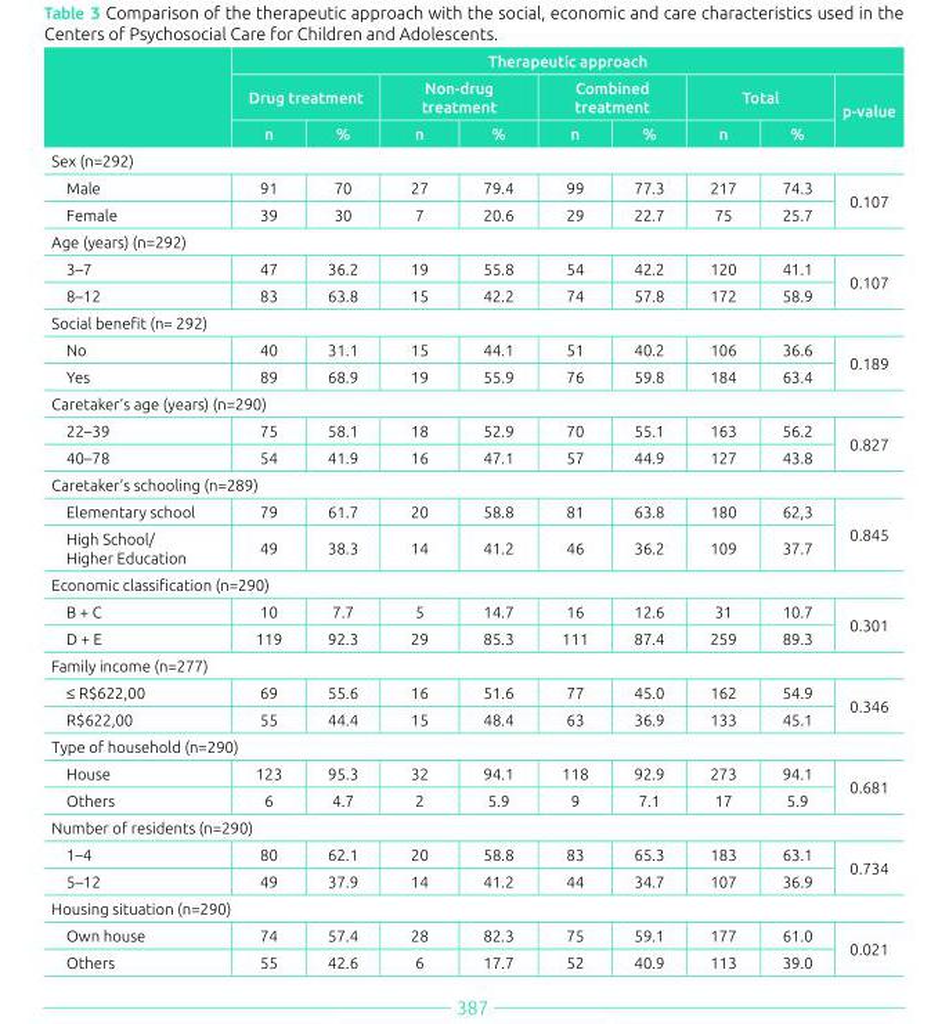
<table><thead><tr><td rowspan="3"></td><td colspan="9">Therapeutic approach</td></tr><tr><td colspan="2">Drug treatment</td><td colspan="2">Non‑drug treatment</td><td colspan="2">Combined treatment</td><td colspan="2">Total</td><td rowspan="2">p‑value</td></tr><tr><td>n</td><td>%</td><td>n</td><td>%</td><td>n</td><td>%</td><td>n</td><td>%</td></tr></thead><tbody><tr><td colspan="10">Sex (n=292)</td></tr><tr><td>Male</td><td>91</td><td>70</td><td>27</td><td>79.4</td><td>99</td><td>77.3</td><td>217</td><td>74.3</td><td rowspan="2">0.107</td></tr><tr><td>Female</td><td>39</td><td>30</td><td>7</td><td>20.6</td><td>29</td><td>22.7</td><td>75</td><td>25.7</td></tr><tr><td colspan="10">Age (years) (n=292)</td></tr><tr><td>3–7</td><td>47</td><td>36.2</td><td>19</td><td>55.8</td><td>54</td><td>42.2</td><td>120</td><td>41.1</td><td rowspan="2">0.107</td></tr><tr><td>8–12</td><td>83</td><td>63.8</td><td>15</td><td>42.2</td><td>74</td><td>57.8</td><td>172</td><td>58.9</td></tr><tr><td colspan="10">Social benefit (n= 292)</td></tr><tr><td>No</td><td>40</td><td>31.1</td><td>15</td><td>44.1</td><td>51</td><td>40.2</td><td>106</td><td>36.6</td><td rowspan="2">0.189</td></tr><tr><td>Yes</td><td>89</td><td>68.9</td><td>19</td><td>55.9</td><td>76</td><td>59.8</td><td>184</td><td>63.4</td></tr><tr><td colspan="10">Caretaker’s age (years) (n=290)</td></tr><tr><td>22–39</td><td>75</td><td>58.1</td><td>18</td><td>52.9</td><td>70</td><td>55.1</td><td>163</td><td>56.2</td><td rowspan="2">0.827</td></tr><tr><td>40–78</td><td>54</td><td>41.9</td><td>16</td><td>47.1</td><td>57</td><td>44.9</td><td>127</td><td>43.8</td></tr><tr><td colspan="10">Caretaker’s schooling (n=289)</td></tr><tr><td>Elementary school</td><td>79</td><td>61.7</td><td>20</td><td>58.8</td><td>81</td><td>63.8</td><td>180</td><td>62,3</td><td rowspan="2">0.845</td></tr><tr><td>High School/ Higher Education</td><td>49</td><td>38.3</td><td>14</td><td>41.2</td><td>46</td><td>36.2</td><td>109</td><td>37.7</td></tr><tr><td colspan="10">Economic classification (n=290)</td></tr><tr><td>B + C</td><td>10</td><td>7.7</td><td>5</td><td>14.7</td><td>16</td><td>12.6</td><td>31</td><td>10.7</td><td rowspan="2">0.301</td></tr><tr><td>D + E</td><td>119</td><td>92.3</td><td>29</td><td>85.3</td><td>111</td><td>87.4</td><td>259</td><td>89.3</td></tr><tr><td colspan="10">Family income (n=277)</td></tr><tr><td>≤ R$622,00</td><td>69</td><td>55.6</td><td>16</td><td>51.6</td><td>77</td><td>45.0</td><td>162</td><td>54.9</td><td rowspan="2">0.346</td></tr><tr><td>R$622,00</td><td>55</td><td>44.4</td><td>15</td><td>48.4</td><td>63</td><td>36.9</td><td>133</td><td>45.1</td></tr><tr><td colspan="10">Type of household (n=290)</td></tr><tr><td>House</td><td>123</td><td>95.3</td><td>32</td><td>94.1</td><td>118</td><td>92.9</td><td>273</td><td>94.1</td><td rowspan="2">0.681</td></tr><tr><td>Others</td><td>6</td><td>4.7</td><td>2</td><td>5.9</td><td>9</td><td>7.1</td><td>17</td><td>5.9</td></tr><tr><td colspan="10">Number of residents (n=290)</td></tr><tr><td>1–4</td><td>80</td><td>62.1</td><td>20</td><td>58.8</td><td>83</td><td>65.3</td><td>183</td><td>63.1</td><td rowspan="2">0.734</td></tr><tr><td>5–12</td><td>49</td><td>37.9</td><td>14</td><td>41.2</td><td>44</td><td>34.7</td><td>107</td><td>36.9</td></tr><tr><td colspan="10">Housing situation (n=290)</td></tr><tr><td>Own house</td><td>74</td><td>57.4</td><td>28</td><td>82.3</td><td>75</td><td>59.1</td><td>177</td><td>61.0</td><td rowspan="2">0.021</td></tr><tr><td>Others</td><td>55</td><td>42.6</td><td>6</td><td>17.7</td><td>52</td><td>40.9</td><td>113</td><td>39.0</td></tr></tbody></table>